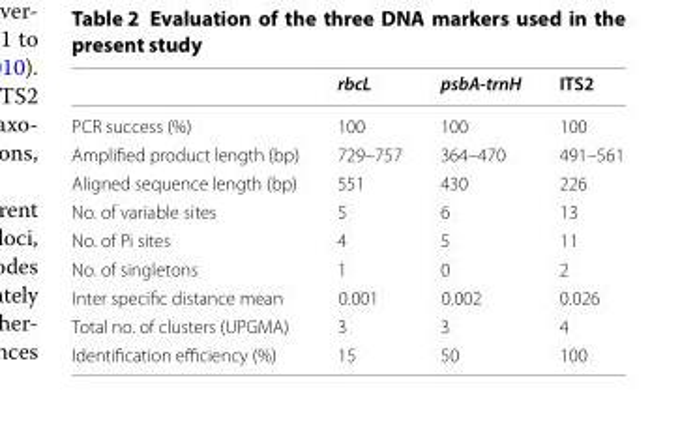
<table><thead><tr><td></td><td>rbcL</td><td>psbA-trnH</td><td>ITS2</td></tr></thead><tbody><tr><td>PCR success (%)</td><td>100</td><td>100</td><td>100</td></tr><tr><td>Amplified product length (bp)</td><td>729–757</td><td>364–470</td><td>491–561</td></tr><tr><td>Aligned sequence length (bp)</td><td>551</td><td>430</td><td>226</td></tr><tr><td>No. of variable sites</td><td>5</td><td>6</td><td>13</td></tr><tr><td>No. of Pi sites</td><td>4</td><td>5</td><td>11</td></tr><tr><td>No. of singletons</td><td>1</td><td>0</td><td>2</td></tr><tr><td>Inter specific distance mean</td><td>0.001</td><td>0.002</td><td>0.026</td></tr><tr><td>Total no. of clusters (UPGMA)</td><td>3</td><td>3</td><td>4</td></tr><tr><td>Identification efficiency (%)</td><td>15</td><td>50</td><td>100</td></tr></tbody></table>